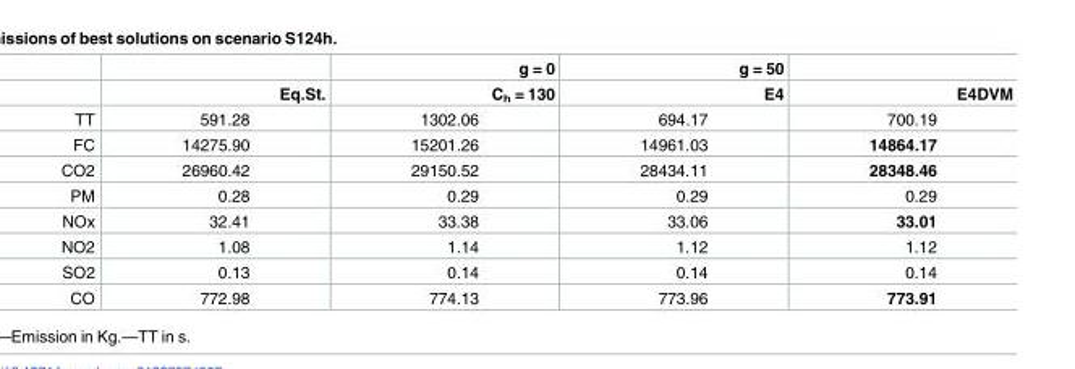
<table><thead><tr><td rowspan="2"></td><td rowspan="2">Eq.St.</td><td rowspan="2">g = 0 C<sub>h</sub> = 130</td><td rowspan="2">g = 50 E4</td><td rowspan="2">E4DVM</td></tr><tr></tr></thead><tbody><tr><td>TT</td><td>591.28</td><td>1302.06</td><td>694.17</td><td>700.19</td></tr><tr><td>FC</td><td>14275.90</td><td>15201.26</td><td>14961.03</td><td>14864.17</td></tr><tr><td>CO2</td><td>26960.42</td><td>29150.52</td><td>28434.11</td><td>28348.46</td></tr><tr><td>PM</td><td>0.28</td><td>0.29</td><td>0.29</td><td>0.29</td></tr><tr><td>NOx</td><td>32.41</td><td>33.38</td><td>33.06</td><td>33.01</td></tr><tr><td>NO2</td><td>1.08</td><td>1.14</td><td>1.12</td><td>1.12</td></tr><tr><td>SO2</td><td>0.13</td><td>0.14</td><td>0.14</td><td>0.14</td></tr><tr><td>CO</td><td>772.98</td><td>774.13</td><td>773.96</td><td>773.91</td></tr></tbody></table>